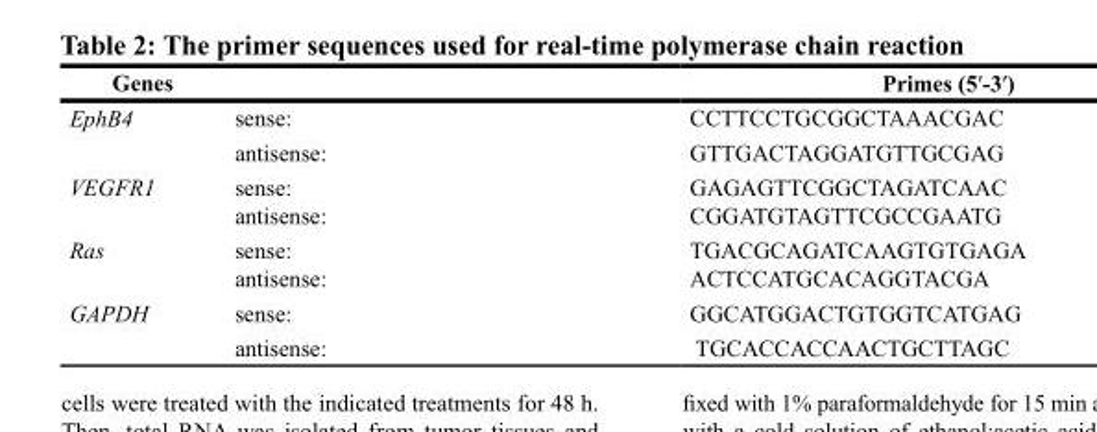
<table><thead><tr><td>Genes</td><td></td><td>Primes (5ʹ-3ʹ)</td></tr></thead><tbody><tr><td rowspan="2">EphB4</td><td>sense:</td><td>CCTTCCTGCGGCTAAACGAC</td></tr><tr><td>antisense:</td><td>GTTGACTAGGATGTTGCGAG</td></tr><tr><td>VEGFR1</td><td>sense: antisense:</td><td>GAGAGTTCGGCTAGATCAAC CGGATGTAGTTCGCCGAATG</td></tr><tr><td>Ras</td><td>sense: antisense:</td><td>TGACGCAGATCAAGTGTGAGA ACTCCATGCACAGGTACGA</td></tr><tr><td rowspan="2">GAPDH</td><td>sense:</td><td>GGCATGGACTGTGGTCATGAG</td></tr><tr><td>antisense:</td><td>TGCACCACCAACTGCTTAGC</td></tr></tbody></table>